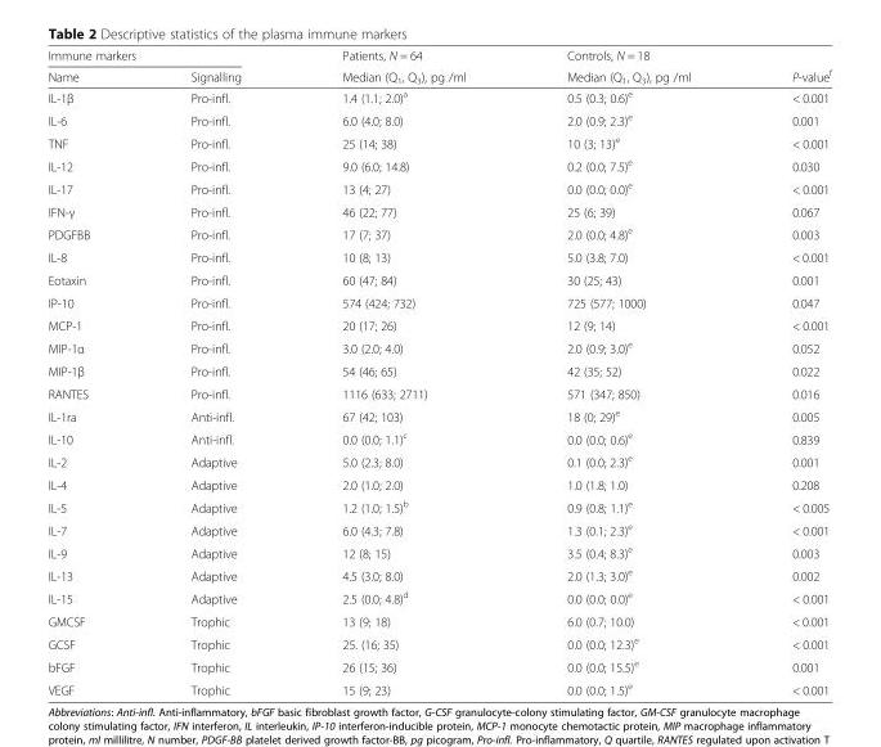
<table><thead><tr><td colspan="2">Immune markers</td><td rowspan="2">Patients, N = 64 Median (Q<sub>1</sub>, Q<sub>3</sub>), pg /ml</td><td rowspan="2">Controls, N = 18 Median (Q<sub>1</sub>, Q<sub>3</sub>), pg /ml</td><td rowspan="2">P-value<sup>f</sup></td></tr><tr><td>Name</td><td>Signalling</td></tr></thead><tbody><tr><td>IL-1β</td><td>Pro-infl.</td><td>1.4 (1.1; 2.0)<sup>a</sup></td><td>0.5 (0.3; 0.6)<sup>e</sup></td><td>&lt; 0.001</td></tr><tr><td>IL-6</td><td>Pro-infl.</td><td>6.0 (4.0; 8.0)</td><td>2.0 (0.9; 2.3)<sup>e</sup></td><td>0.001</td></tr><tr><td>TNF</td><td>Pro-infl.</td><td>25 (14; 38)</td><td>10 (3; 13)<sup>e</sup></td><td>&lt; 0.001</td></tr><tr><td>IL-12</td><td>Pro-infl.</td><td>9.0 (6.0; 14.8)</td><td>0.2 (0.0; 7.5)<sup>e</sup></td><td>0.030</td></tr><tr><td>IL-17</td><td>Pro-infl.</td><td>13 (4; 27)</td><td>0.0 (0.0; 0.0)<sup>e</sup></td><td>&lt; 0.001</td></tr><tr><td>IFN-γ</td><td>Pro-infl.</td><td>46 (22; 77)</td><td>25 (6; 39)</td><td>0.067</td></tr><tr><td>PDGFBB</td><td>Pro-infl.</td><td>17 (7; 37)</td><td>2.0 (0.0; 4.8)<sup>e</sup></td><td>0.003</td></tr><tr><td>IL-8</td><td>Pro-infl.</td><td>10 (8; 13)</td><td>5.0 (3.8; 7.0)</td><td>&lt; 0.001</td></tr><tr><td>Eotaxin</td><td>Pro-infl.</td><td>60 (47; 84)</td><td>30 (25; 43)</td><td>0.001</td></tr><tr><td>IP-10</td><td>Pro-infl.</td><td>574 (424; 732)</td><td>725 (577; 1000)</td><td>0.047</td></tr><tr><td>MCP-1</td><td>Pro-infl.</td><td>20 (17; 26)</td><td>12 (9; 14)</td><td>&lt; 0.001</td></tr><tr><td>MIP-1α</td><td>Pro-infl.</td><td>3.0 (2.0; 4.0)</td><td>2.0 (0.9; 3.0)<sup>e</sup></td><td>0.052</td></tr><tr><td>MIP-1β</td><td>Pro-infl.</td><td>54 (46; 65)</td><td>42 (35; 52)</td><td>0.022</td></tr><tr><td>RANTES</td><td>Pro-infl.</td><td>1116 (633; 2711)</td><td>571 (347; 850)</td><td>0.016</td></tr><tr><td>IL-1ra</td><td>Anti-infl.</td><td>67 (42; 103)</td><td>18 (0; 29)<sup>e</sup></td><td>0.005</td></tr><tr><td>IL-10</td><td>Anti-infl.</td><td>0.0 (0.0; 1.1)<sup>c</sup></td><td>0.0 (0.0; 0.6)<sup>e</sup></td><td>0.839</td></tr><tr><td>IL-2</td><td>Adaptive</td><td>5.0 (2.3; 8.0)</td><td>0.1 (0.0; 2.3)<sup>e</sup></td><td>0.001</td></tr><tr><td>IL-4</td><td>Adaptive</td><td>2.0 (1.0; 2.0)</td><td>1.0 (1.8; 1.0)</td><td>0.208</td></tr><tr><td>IL-5</td><td>Adaptive</td><td>1.2 (1.0; 1.5)<sup>b</sup></td><td>0.9 (0.8; 1.1)<sup>e</sup></td><td>&lt; 0.005</td></tr><tr><td>IL-7</td><td>Adaptive</td><td>6.0 (4.3; 7.8)</td><td>1.3 (0.1; 2.3)<sup>e</sup></td><td>&lt; 0.001</td></tr><tr><td>IL-9</td><td>Adaptive</td><td>12 (8; 15)</td><td>3.5 (0.4; 8.3)<sup>e</sup></td><td>0.003</td></tr><tr><td>IL-13</td><td>Adaptive</td><td>4.5 (3.0; 8.0)</td><td>2.0 (1.3; 3.0)<sup>e</sup></td><td>0.002</td></tr><tr><td>IL-15</td><td>Adaptive</td><td>2.5 (0.0; 4.8)<sup>d</sup></td><td>0.0 (0.0; 0.0)<sup>e</sup></td><td>&lt; 0.001</td></tr><tr><td>GMCSF</td><td>Trophic</td><td>13 (9; 18)</td><td>6.0 (0.7; 10.0)</td><td>&lt; 0.001</td></tr><tr><td>GCSF</td><td>Trophic</td><td>25. (16; 35)</td><td>0.0 (0.0; 12.3)<sup>e</sup></td><td>&lt; 0.001</td></tr><tr><td>bFGF</td><td>Trophic</td><td>26 (15; 36)</td><td>0.0 (0.0; 15.5)<sup>e</sup></td><td>0.001</td></tr><tr><td>VEGF</td><td>Trophic</td><td>15 (9; 23)</td><td>0.0 (0.0; 1.5)<sup>e</sup></td><td>&lt; 0.001</td></tr></tbody></table>